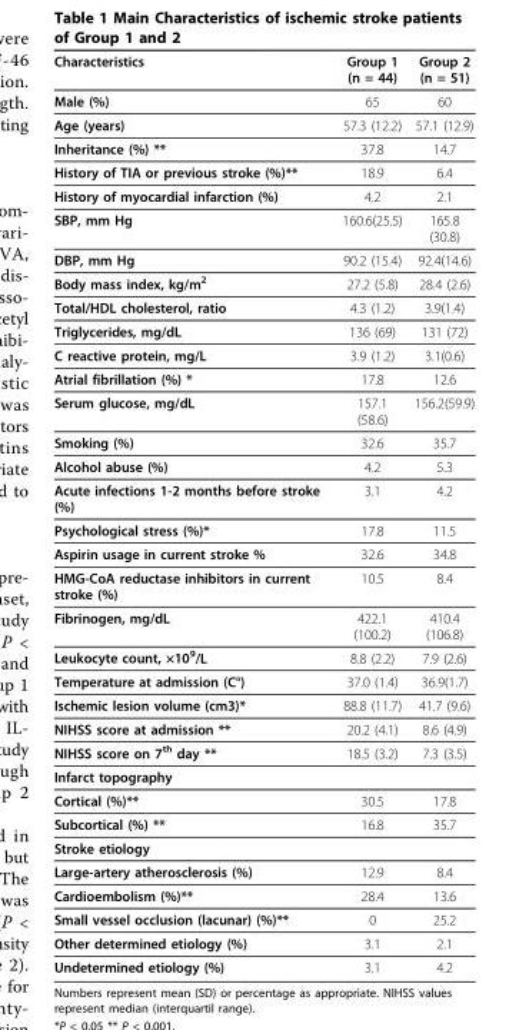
<table><thead><tr><td>Characteristics</td><td>Group 1 (n = 44)</td><td>Group 2 (n = 51)</td></tr></thead><tbody><tr><td>Male (%)</td><td>65</td><td>60</td></tr><tr><td>Age (years)</td><td>57.3 (12.2)</td><td>57.1 (12.9)</td></tr><tr><td>Inheritance (%) **</td><td>37.8</td><td>14.7</td></tr><tr><td>History of TIA or previous stroke (%)**</td><td>18.9</td><td>6.4</td></tr><tr><td>History of myocardial infarction (%)</td><td>4.2</td><td>2.1</td></tr><tr><td>SBP, mm Hg</td><td>160.6(25.5)</td><td>165.8 (30.8)</td></tr><tr><td>DBP, mm Hg</td><td>90.2 (15.4)</td><td>92.4(14.6)</td></tr><tr><td>Body mass index, kg/m<sup>2</sup></td><td>27.2 (5.8)</td><td>28.4 (2.6)</td></tr><tr><td>Total/HDL cholesterol, ratio</td><td>4.3 (1.2)</td><td>3.9(1.4)</td></tr><tr><td>Triglycerides, mg/dL</td><td>136 (69)</td><td>131 (72)</td></tr><tr><td>C reactive protein, mg/L</td><td>3.9 (1.2)</td><td>3.1(0.6)</td></tr><tr><td>Atrial fibrillation (%) *</td><td>17.8</td><td>12.6</td></tr><tr><td>Serum glucose, mg/dL</td><td>157.1 (58.6)</td><td>156.2(59.9)</td></tr><tr><td>Smoking (%)</td><td>32.6</td><td>35.7</td></tr><tr><td>Alcohol abuse (%)</td><td>4.2</td><td>5.3</td></tr><tr><td>Acute infections 1-2 months before stroke (%)</td><td>3.1</td><td>4.2</td></tr><tr><td>Psychological stress (%)*</td><td>17.8</td><td>11.5</td></tr><tr><td>Aspirin usage in current stroke %</td><td>32.6</td><td>34.8</td></tr><tr><td>HMG-CoA reductase inhibitors in current stroke (%)</td><td>10.5</td><td>8.4</td></tr><tr><td>Fibrinogen, mg/dL</td><td>422.1 (100.2)</td><td>410.4 (106.8)</td></tr><tr><td>Leukocyte count, ×10<sup>9</sup>/L</td><td>8.8 (2.2)</td><td>7.9 (2.6)</td></tr><tr><td>Temperature at admission (C°)</td><td>37.0 (1.4)</td><td>36.9(1.7)</td></tr><tr><td>Ischemic lesion volume (cm3)*</td><td>88.8 (11.7)</td><td>41.7 (9.6)</td></tr><tr><td>NIHSS score at admission **</td><td>20.2 (4.1)</td><td>8.6 (4.9)</td></tr><tr><td>NIHSS score on 7<sup>th</sup> day **</td><td>18.5 (3.2)</td><td>7.3 (3.5)</td></tr><tr><td colspan="3">Infarct topography</td></tr><tr><td>Cortical (%)**</td><td>30.5</td><td>17.8</td></tr><tr><td>Subcortical (%) **</td><td>16.8</td><td>35.7</td></tr><tr><td colspan="3">Stroke etiology</td></tr><tr><td>Large-artery atherosclerosis (%)</td><td>12.9</td><td>8.4</td></tr><tr><td>Cardioembolism (%)**</td><td>28.4</td><td>13.6</td></tr><tr><td>Small vessel occlusion (lacunar) (%)**</td><td>0</td><td>25.2</td></tr><tr><td>Other determined etiology (%)</td><td>3.1</td><td>2.1</td></tr><tr><td>Undetermined etiology (%)</td><td>3.1</td><td>4.2</td></tr></tbody></table>